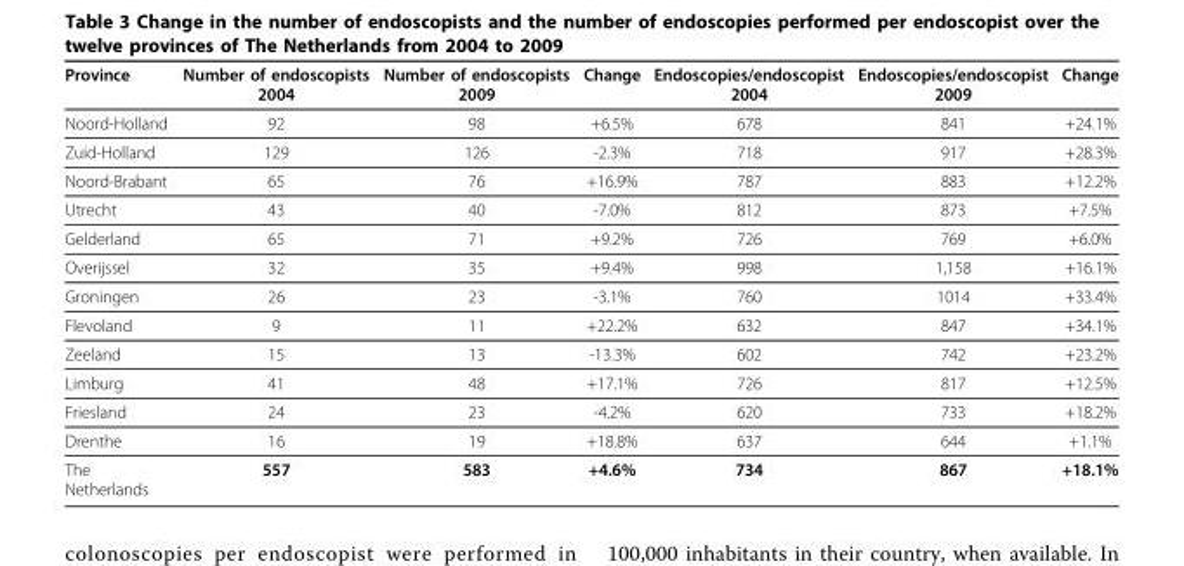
<table><thead><tr><td>Province</td><td>Number of endoscopists 2004</td><td>Number of endoscopists 2009</td><td>Change</td><td>Endoscopies/endoscopist 2004</td><td>Endoscopies/endoscopist 2009</td><td>Change</td></tr></thead><tbody><tr><td>Noord-Holland</td><td>92</td><td>98</td><td>+6.5%</td><td>678</td><td>841</td><td>+24.1%</td></tr><tr><td>Zuid-Holland</td><td>129</td><td>126</td><td>-2.3%</td><td>718</td><td>917</td><td>+28.3%</td></tr><tr><td>Noord-Brabant</td><td>65</td><td>76</td><td>+16.9%</td><td>787</td><td>883</td><td>+12.2%</td></tr><tr><td>Utrecht</td><td>43</td><td>40</td><td>-7.0%</td><td>812</td><td>873</td><td>+7.5%</td></tr><tr><td>Gelderland</td><td>65</td><td>71</td><td>+9.2%</td><td>726</td><td>769</td><td>+6.0%</td></tr><tr><td>Overijssel</td><td>32</td><td>35</td><td>+9.4%</td><td>998</td><td>1,158</td><td>+16.1%</td></tr><tr><td>Groningen</td><td>26</td><td>23</td><td>-3.1%</td><td>760</td><td>1014</td><td>+33.4%</td></tr><tr><td>Flevoland</td><td>9</td><td>11</td><td>+22.2%</td><td>632</td><td>847</td><td>+34.1%</td></tr><tr><td>Zeeland</td><td>15</td><td>13</td><td>-13.3%</td><td>602</td><td>742</td><td>+23.2%</td></tr><tr><td>Limburg</td><td>41</td><td>48</td><td>+17.1%</td><td>726</td><td>817</td><td>+12.5%</td></tr><tr><td>Friesland</td><td>24</td><td>23</td><td>-4.2%</td><td>620</td><td>733</td><td>+18.2%</td></tr><tr><td>Drenthe</td><td>16</td><td>19</td><td>+18.8%</td><td>637</td><td>644</td><td>+1.1%</td></tr><tr><td>The Netherlands</td><td>557</td><td>583</td><td>+4.6%</td><td>734</td><td>867</td><td>+18.1%</td></tr></tbody></table>